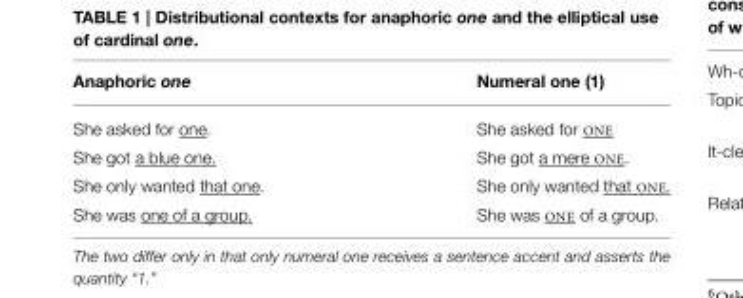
<table><thead><tr><td>Anaphoric one</td><td>Numeral one (1)</td></tr></thead><tbody><tr><td>She asked for one.</td><td>She asked for ONE</td></tr><tr><td>She got a blue one.</td><td>She got a mere ONE.</td></tr><tr><td>She only wanted that one.</td><td>She only wanted that ONE.</td></tr><tr><td>She was one of a group.</td><td>She was ONE of a group.</td></tr></tbody></table>